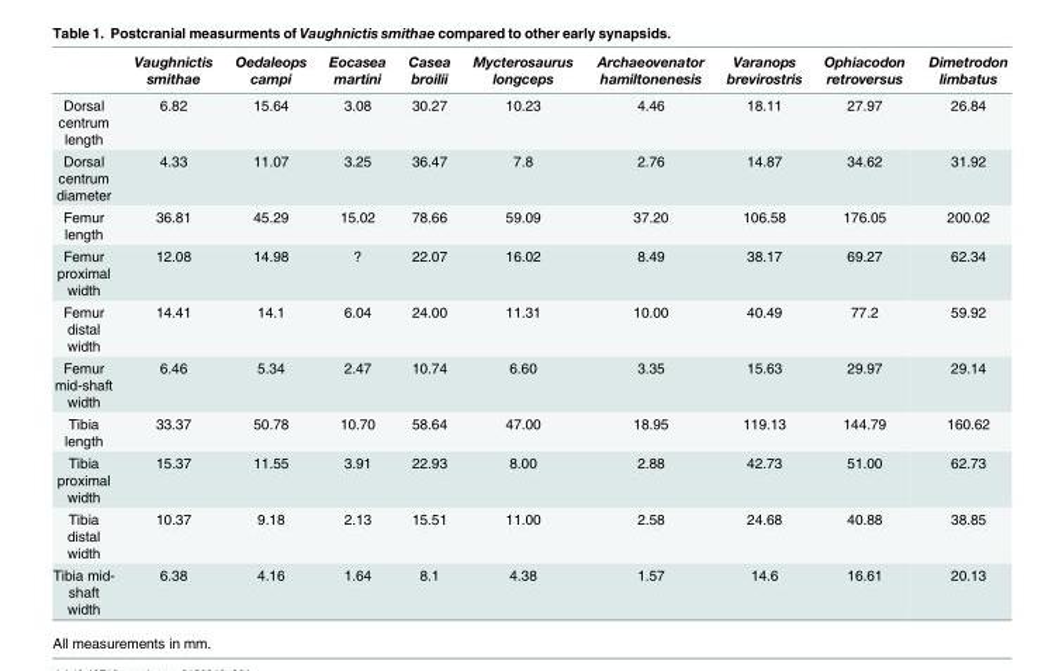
<table><thead><tr><td></td><td>Vaughnictis smithae</td><td>Oedaleops campi</td><td>Eocasea martini</td><td>Casea broilii</td><td>Mycterosaurus longceps</td><td>Archaeovenator hamiltonenesis</td><td>Varanops brevirostris</td><td>Ophiacodon retroversus</td><td>Dimetrodon limbatus</td></tr></thead><tbody><tr><td>Dorsal centrum length</td><td>6.82</td><td>15.64</td><td>3.08</td><td>30.27</td><td>10.23</td><td>4.46</td><td>18.11</td><td>27.97</td><td>26.84</td></tr><tr><td>Dorsal centrum diameter</td><td>4.33</td><td>11.07</td><td>3.25</td><td>36.47</td><td>7.8</td><td>2.76</td><td>14.87</td><td>34.62</td><td>31.92</td></tr><tr><td>Femur length</td><td>36.81</td><td>45.29</td><td>15.02</td><td>78.66</td><td>59.09</td><td>37.20</td><td>106.58</td><td>176.05</td><td>200.02</td></tr><tr><td>Femur proximal width</td><td>12.08</td><td>14.98</td><td>?</td><td>22.07</td><td>16.02</td><td>8.49</td><td>38.17</td><td>69.27</td><td>62.34</td></tr><tr><td>Femur distal width</td><td>14.41</td><td>14.1</td><td>6.04</td><td>24.00</td><td>11.31</td><td>10.00</td><td>40.49</td><td>77.2</td><td>59.92</td></tr><tr><td>Femur mid-shaft width</td><td>6.46</td><td>5.34</td><td>2.47</td><td>10.74</td><td>6.60</td><td>3.35</td><td>15.63</td><td>29.97</td><td>29.14</td></tr><tr><td>Tibia length</td><td>33.37</td><td>50.78</td><td>10.70</td><td>58.64</td><td>47.00</td><td>18.95</td><td>119.13</td><td>144.79</td><td>160.62</td></tr><tr><td>Tibia proximal width</td><td>15.37</td><td>11.55</td><td>3.91</td><td>22.93</td><td>8.00</td><td>2.88</td><td>42.73</td><td>51.00</td><td>62.73</td></tr><tr><td>Tibia distal width</td><td>10.37</td><td>9.18</td><td>2.13</td><td>15.51</td><td>11.00</td><td>2.58</td><td>24.68</td><td>40.88</td><td>38.85</td></tr><tr><td>Tibia mid- shaft width</td><td>6.38</td><td>4.16</td><td>1.64</td><td>8.1</td><td>4.38</td><td>1.57</td><td>14.6</td><td>16.61</td><td>20.13</td></tr></tbody></table>